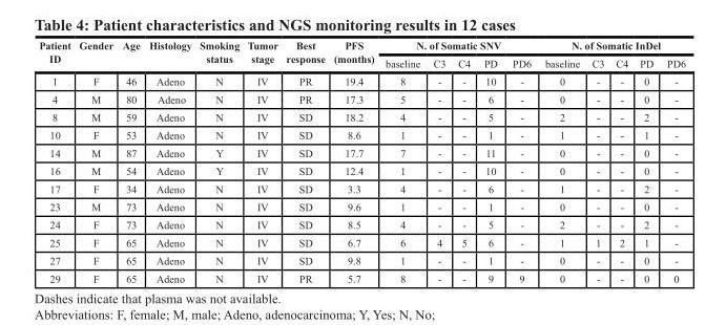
<table><thead><tr><td rowspan="2">Patient ID</td><td rowspan="2">Gender</td><td rowspan="2">Age</td><td rowspan="2">Histology</td><td rowspan="2">Smoking status</td><td rowspan="2">Tumor stage</td><td rowspan="2">Best response</td><td rowspan="2">PFS (months)</td><td colspan="5">N. of Somatic SNV</td><td colspan="5">N. of Somatic InDel</td></tr><tr><td>baseline</td><td>C3</td><td>C4</td><td>PD</td><td>PD6</td><td>baseline</td><td>C3</td><td>C4</td><td>PD</td><td>PD6</td></tr></thead><tbody><tr><td>1</td><td>F</td><td>46</td><td>Adeno</td><td>N</td><td>IV</td><td>PR</td><td>19.4</td><td>8</td><td>-</td><td>-</td><td>10</td><td>-</td><td>0</td><td>-</td><td>-</td><td>0</td><td>-</td></tr><tr><td>4</td><td>M</td><td>80</td><td>Adeno</td><td>N</td><td>IV</td><td>PR</td><td>17.3</td><td>5</td><td>-</td><td>-</td><td>6</td><td>-</td><td>0</td><td>-</td><td>-</td><td>0</td><td>-</td></tr><tr><td>8</td><td>M</td><td>59</td><td>Adeno</td><td>N</td><td>IV</td><td>SD</td><td>18.2</td><td>4</td><td>-</td><td>-</td><td>5</td><td>-</td><td>2</td><td>-</td><td>-</td><td>2</td><td>-</td></tr><tr><td>10</td><td>F</td><td>53</td><td>Adeno</td><td>N</td><td>IV</td><td>SD</td><td>8.6</td><td>1</td><td>-</td><td>-</td><td>1</td><td>-</td><td>1</td><td>-</td><td>-</td><td>1</td><td>-</td></tr><tr><td>14</td><td>M</td><td>87</td><td>Adeno</td><td>Y</td><td>IV</td><td>SD</td><td>17.7</td><td>7</td><td>-</td><td>-</td><td>11</td><td>-</td><td>0</td><td>-</td><td>-</td><td>0</td><td>-</td></tr><tr><td>16</td><td>M</td><td>54</td><td>Adeno</td><td>Y</td><td>IV</td><td>SD</td><td>12.4</td><td>1</td><td>-</td><td>-</td><td>10</td><td>-</td><td>0</td><td>-</td><td>-</td><td>0</td><td>-</td></tr><tr><td>17</td><td>F</td><td>34</td><td>Adeno</td><td>N</td><td>IV</td><td>SD</td><td>3.3</td><td>4</td><td>-</td><td>-</td><td>6</td><td>-</td><td>1</td><td>-</td><td>-</td><td>2</td><td>-</td></tr><tr><td>23</td><td>M</td><td>73</td><td>Adeno</td><td>N</td><td>IV</td><td>SD</td><td>9.6</td><td>1</td><td>-</td><td>-</td><td>1</td><td>-</td><td>0</td><td>-</td><td>-</td><td>0</td><td>-</td></tr><tr><td>24</td><td>F</td><td>73</td><td>Adeno</td><td>N</td><td>IV</td><td>SD</td><td>8.5</td><td>4</td><td>-</td><td>-</td><td>5</td><td>-</td><td>2</td><td>-</td><td>-</td><td>2</td><td>-</td></tr><tr><td>25</td><td>F</td><td>65</td><td>Adeno</td><td>N</td><td>IV</td><td>SD</td><td>6.7</td><td>6</td><td>4</td><td>5</td><td>6</td><td>-</td><td>1</td><td>1</td><td>2</td><td>1</td><td>-</td></tr><tr><td>27</td><td>F</td><td>65</td><td>Adeno</td><td>N</td><td>IV</td><td>SD</td><td>9.8</td><td>1</td><td>-</td><td>-</td><td>1</td><td>-</td><td>0</td><td>-</td><td>-</td><td>0</td><td>-</td></tr><tr><td>29</td><td>F</td><td>65</td><td>Adeno</td><td>N</td><td>IV</td><td>PR</td><td>5.7</td><td>8</td><td>-</td><td>-</td><td>9</td><td>9</td><td>0</td><td>-</td><td>-</td><td>0</td><td>0</td></tr></tbody></table>